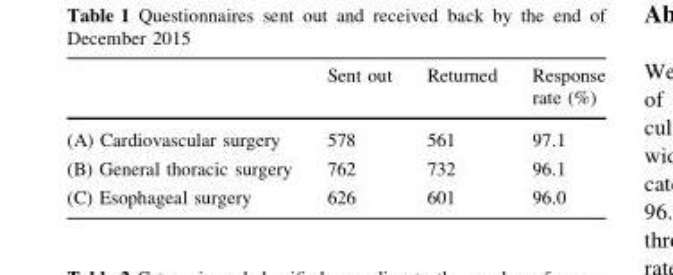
<table><thead><tr><td></td><td>Sent out</td><td>Returned</td><td>Response rate (%)</td></tr></thead><tbody><tr><td>(A) Cardiovascular surgery</td><td>578</td><td>561</td><td>97.1</td></tr><tr><td>(B) General thoracic surgery</td><td>762</td><td>732</td><td>96.1</td></tr><tr><td>(C) Esophageal surgery</td><td>626</td><td>601</td><td>96.0</td></tr></tbody></table>